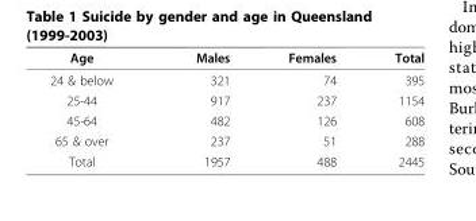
<table><thead><tr><td>Age</td><td>Males</td><td>Females</td><td>Total</td></tr></thead><tbody><tr><td>24 &amp; below</td><td>321</td><td>74</td><td>395</td></tr><tr><td>25-44</td><td>917</td><td>237</td><td>1154</td></tr><tr><td>45-64</td><td>482</td><td>126</td><td>608</td></tr><tr><td>65 &amp; over</td><td>237</td><td>51</td><td>288</td></tr><tr><td>Total</td><td>1957</td><td>488</td><td>2445</td></tr></tbody></table>